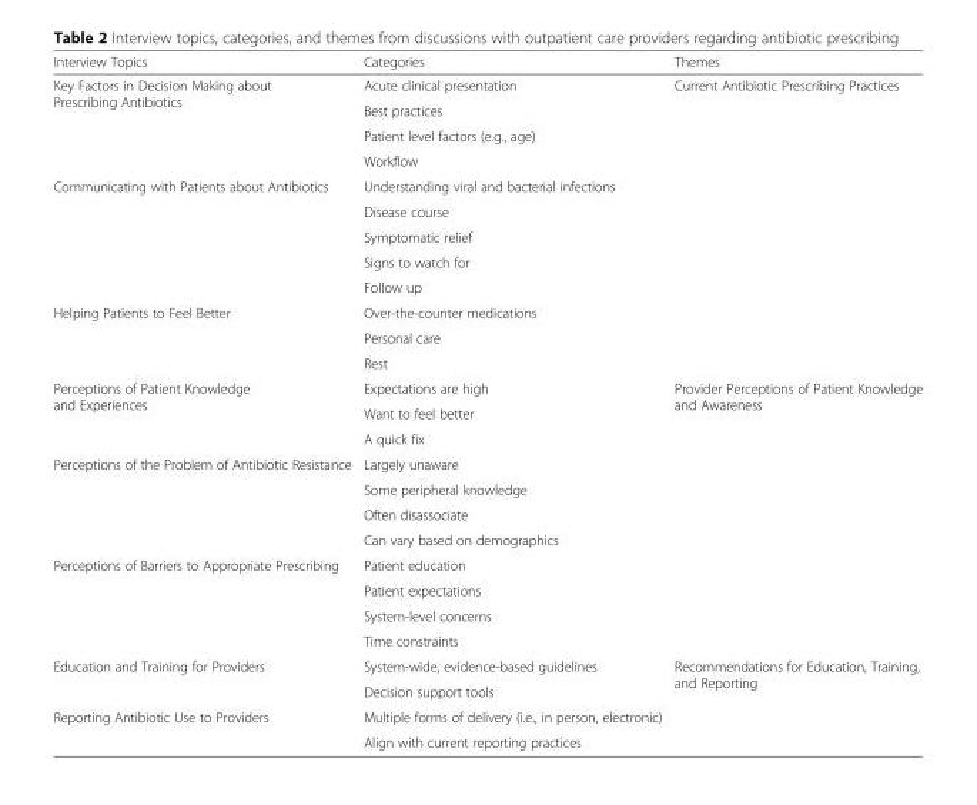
<table><thead><tr><td>Interview Topics</td><td>Categories</td><td>Themes</td></tr></thead><tbody><tr><td rowspan="4">Key Factors in Decision Making about Prescribing Antibiotics</td><td>Acute clinical presentation</td><td rowspan="12">Current Antibiotic Prescribing Practices</td></tr><tr><td>Best practices</td></tr><tr><td>Patient level factors (e.g., age)</td></tr><tr><td>Workflow</td></tr><tr><td rowspan="5">Communicating with Patients about Antibiotics</td><td>Understanding viral and bacterial infections</td></tr><tr><td>Disease course</td></tr><tr><td>Symptomatic relief</td></tr><tr><td>Signs to watch for</td></tr><tr><td>Follow up</td></tr><tr><td rowspan="3">Helping Patients to Feel Better</td><td>Over-the-counter medications</td></tr><tr><td>Personal care</td></tr><tr><td>Rest</td></tr><tr><td rowspan="3">Perceptions of Patient Knowledge and Experiences</td><td>Expectations are high</td><td rowspan="11">Provider Perceptions of Patient Knowledge and Awareness</td></tr><tr><td>Want to feel better</td></tr><tr><td>A quick fix</td></tr><tr><td rowspan="4">Perceptions of the Problem of Antibiotic Resistance</td><td>Largely unaware</td></tr><tr><td>Some peripheral knowledge</td></tr><tr><td>Often disassociate</td></tr><tr><td>Can vary based on demographics</td></tr><tr><td rowspan="4">Perceptions of Barriers to Appropriate Prescribing</td><td>Patient education</td></tr><tr><td>Patient expectations</td></tr><tr><td>System-level concerns</td></tr><tr><td>Time constraints</td></tr><tr><td rowspan="2">Education and Training for Providers</td><td>System-wide, evidence-based guidelines</td><td rowspan="4">Recommendations for Education, Training, and Reporting</td></tr><tr><td>Decision support tools</td></tr><tr><td rowspan="2">Reporting Antibiotic Use to Providers</td><td>Multiple forms of delivery (i.e., in person, electronic)</td></tr><tr><td>Align with current reporting practices</td></tr></tbody></table>